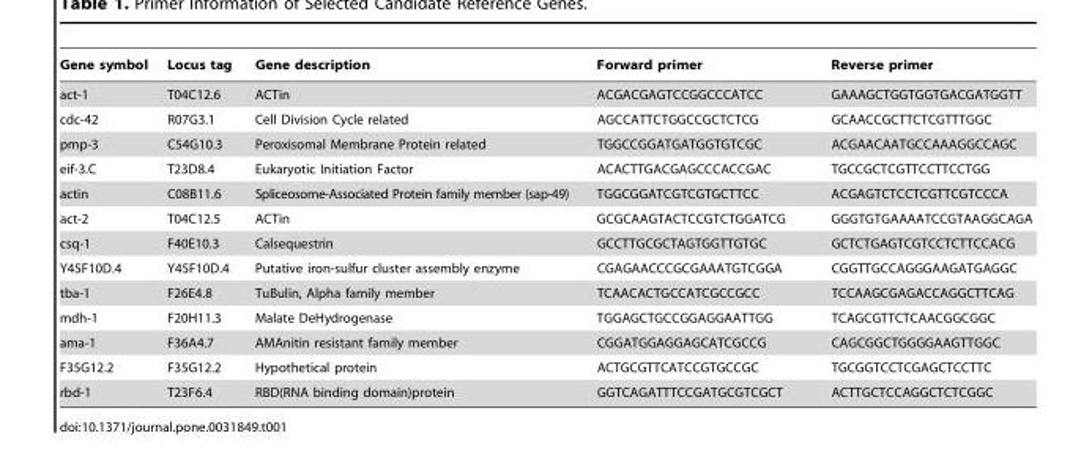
<table><thead><tr><td>Gene symbol</td><td>Locus tag</td><td>Gene description</td><td>Forward primer</td><td>Reverse primer</td></tr></thead><tbody><tr><td>act-1</td><td>T04C12.6</td><td>ACTin</td><td>ACGACGAGTCCGGCCCATCC</td><td>GAAAGCTGGTGGTGACGATGGTT</td></tr><tr><td>cdc-42</td><td>R07G3.1</td><td>Cell Division Cycle related</td><td>AGCCATTCTGGCCGCTCTCG</td><td>GCAACCGCTTCTCGTTTGGC</td></tr><tr><td>pmp-3</td><td>C54G10.3</td><td>Peroxisomal Membrane Protein related</td><td>TGGCCGGATGATGGTGTCGC</td><td>ACGAACAATGCCAAAGGCCAGC</td></tr><tr><td>eif-3.C</td><td>T23D8.4</td><td>Eukaryotic Initiation Factor</td><td>ACACTTGACGAGCCCACCGAC</td><td>TGCCGCTCGTTCCTTCCTGG</td></tr><tr><td>actin</td><td>C08B11.6</td><td>Spliceosome-Associated Protein family member (sap-49)</td><td>TGGCGGATCGTCGTGCTTCC</td><td>ACGAGTCTCCTCGTTCGTCCCA</td></tr><tr><td>act-2</td><td>T04C12.5</td><td>ACTin</td><td>GCGCAAGTACTCCGTCTGGATCG</td><td>GGGTGTGAAAATCCGTAAGGCAGA</td></tr><tr><td>csq-1</td><td>F40E10.3</td><td>Calsequestrin</td><td>GCCTTGCGCTAGTGGTTGTGC</td><td>GCTCTGAGTCGTCCTCTTCCACG</td></tr><tr><td>Y45F10D.4</td><td>Y45F10D.4</td><td>Putative iron-sulfur cluster assembly enzyme</td><td>CGAGAACCCGCGAAATGTCGGA</td><td>CGGTTGCCAGGGAAGATGAGGC</td></tr><tr><td>tba-1</td><td>F26E4.8</td><td>TuBulin, Alpha family member</td><td>TCAACACTGCCATCGCCGCC</td><td>TCCAAGCGAGACCAGGCTTCAG</td></tr><tr><td>mdh-1</td><td>F20H11.3</td><td>Malate DeHydrogenase</td><td>TGGAGCTGCCGGAGGAATTGG</td><td>TCAGCGTTCTCAACGGCGGC</td></tr><tr><td>ama-1</td><td>F36A4.7</td><td>AMAnitin resistant family member</td><td>CGGATGGAGGAGCATCGCCG</td><td>CAGCGGCTGGGGAAGTTGGC</td></tr><tr><td>F35G12.2</td><td>F35G12.2</td><td>Hypothetical protein</td><td>ACTGCGTTCATCCGTGCCGC</td><td>TGCGGTCCTCGAGCTCCTTC</td></tr><tr><td>rbd-1</td><td>T23F6.4</td><td>RBD(RNA binding domain)protein</td><td>GGTCAGATTTCCGATGCGTCGCT</td><td>ACTTGCTCCAGGCTCTCGGC</td></tr></tbody></table>